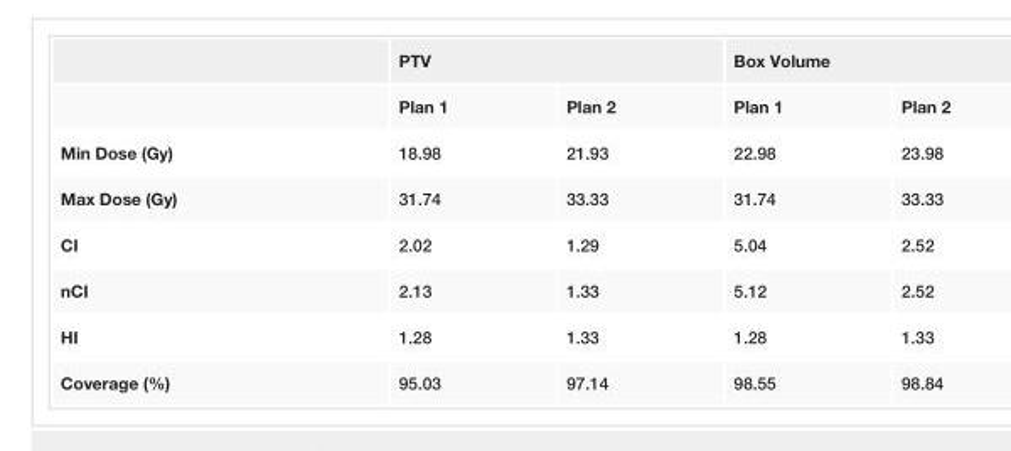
<table><thead><tr><td rowspan="2"></td><td colspan="2">PTV</td><td colspan="2">Box Volume</td></tr><tr><td>Plan 1</td><td>Plan 2</td><td>Plan 1</td><td>Plan 2</td></tr></thead><tbody><tr><td>Min Dose (Gy)</td><td>18.98</td><td>21.93</td><td>22.98</td><td>23.98</td></tr><tr><td>Max Dose (Gy)</td><td>31.74</td><td>33.33</td><td>31.74</td><td>33.33</td></tr><tr><td>CI</td><td>2.02</td><td>1.29</td><td>5.04</td><td>2.52</td></tr><tr><td>nCI</td><td>2.13</td><td>1.33</td><td>5.12</td><td>2.52</td></tr><tr><td>HI</td><td>1.28</td><td>1.33</td><td>1.28</td><td>1.33</td></tr><tr><td>Coverage (%)</td><td>95.03</td><td>97.14</td><td>98.55</td><td>98.84</td></tr></tbody></table>